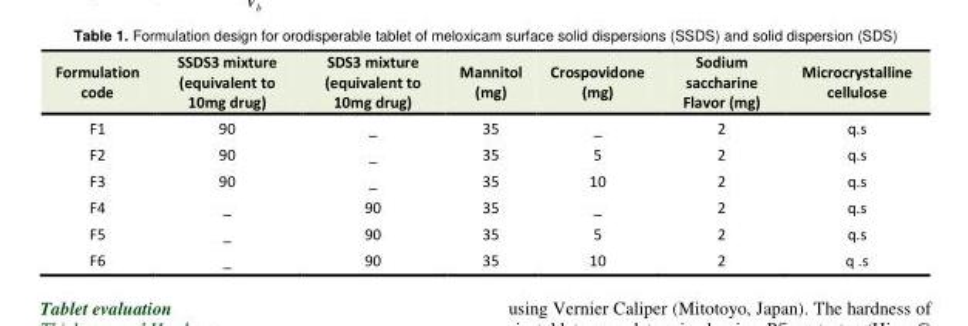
<table><tbody><tr><td>Formulation code</td><td>SSDS3 mixture (equivalent to 10mg drug)</td><td>SDS3 mixture (equivalent to 10mg drug)</td><td>Mannitol (mg)</td><td>Crospovidone (mg)</td><td>Sodium saccharine Flavor (mg)</td><td>Microcrystalline cellulose</td></tr><tr><td>F1</td><td>90</td><td>_</td><td>35</td><td>_</td><td>2</td><td>q.s</td></tr><tr><td>F2</td><td>90</td><td>_</td><td>35</td><td>5</td><td>2</td><td>q.s</td></tr><tr><td>F3</td><td>90</td><td>_</td><td>35</td><td>10</td><td>2</td><td>q.s</td></tr><tr><td>F4</td><td>_</td><td>90</td><td>35</td><td>_</td><td>2</td><td>q.s</td></tr><tr><td>F5</td><td>_</td><td>90</td><td>35</td><td>5</td><td>2</td><td>q.s</td></tr><tr><td>F6</td><td>_</td><td>90</td><td>35</td><td>10</td><td>2</td><td>q .s</td></tr></tbody></table>